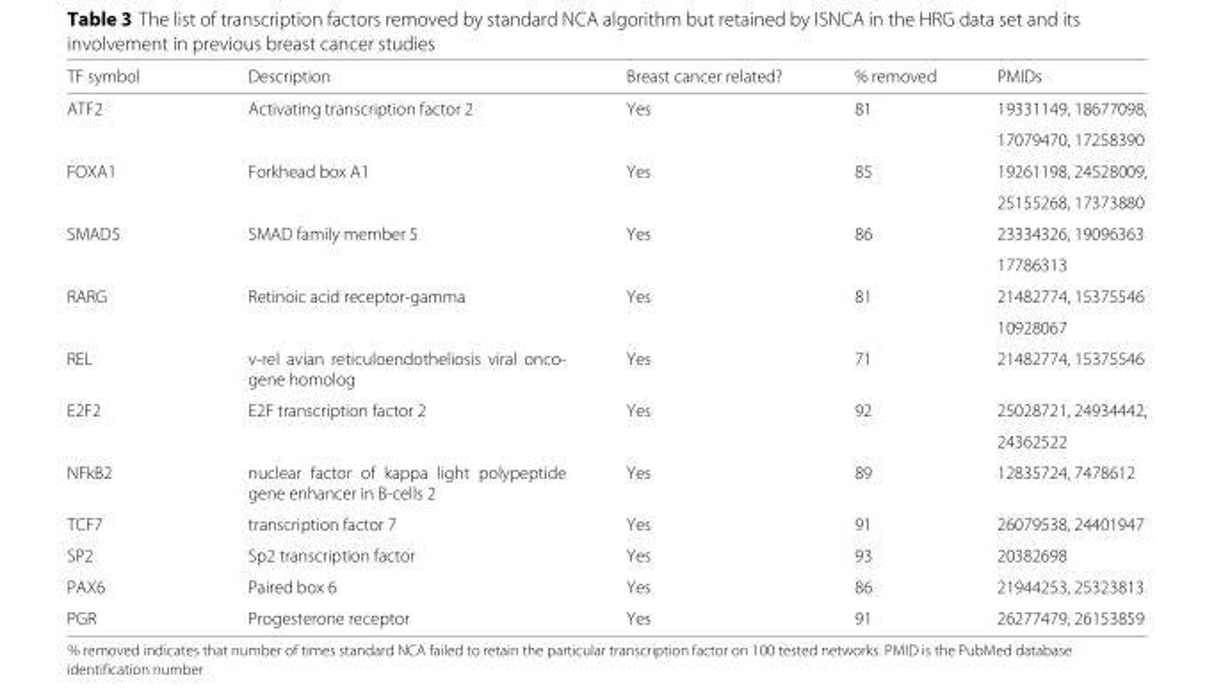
<table><thead><tr><td>TF symbol</td><td>Description</td><td>Breast cancer related?</td><td>% removed</td><td>PMIDs</td></tr></thead><tbody><tr><td rowspan="2">ATF2</td><td>Activating transcription factor 2</td><td>Yes</td><td>81</td><td>19331149, 18677098,</td></tr><tr><td></td><td></td><td></td><td>17079470, 17258390</td></tr><tr><td rowspan="2">FOXA1</td><td>Forkhead box A1</td><td>Yes</td><td>85</td><td>19261198, 24528009,</td></tr><tr><td></td><td></td><td></td><td>25155268, 17373880</td></tr><tr><td rowspan="2">SMAD5</td><td>SMAD family member 5</td><td>Yes</td><td>86</td><td>23334326, 19096363</td></tr><tr><td></td><td></td><td></td><td>17786313</td></tr><tr><td rowspan="2">RARG</td><td>Retinoic acid receptor-gamma</td><td>Yes</td><td>81</td><td>21482774, 15375546</td></tr><tr><td></td><td></td><td></td><td>10928067</td></tr><tr><td>REL</td><td>v-rel avian reticuloendotheliosis viral onco- gene homolog</td><td>Yes</td><td>71</td><td>21482774, 15375546</td></tr><tr><td rowspan="2">E2F2</td><td>E2F transcription factor 2</td><td>Yes</td><td>92</td><td>25028721, 24934442,</td></tr><tr><td></td><td></td><td></td><td>24362522</td></tr><tr><td>NFkB2</td><td>nuclear factor of kappa light polypeptide gene enhancer in B-cells 2</td><td>Yes</td><td>89</td><td>12835724, 7478612</td></tr><tr><td>TCF7</td><td>transcription factor 7</td><td>Yes</td><td>91</td><td>26079538, 24401947</td></tr><tr><td>SP2</td><td>Sp2 transcription factor</td><td>Yes</td><td>93</td><td>20382698</td></tr><tr><td>PAX6</td><td>Paired box 6</td><td>Yes</td><td>86</td><td>21944253, 25323813</td></tr><tr><td>PGR</td><td>Progesterone receptor</td><td>Yes</td><td>91</td><td>26277479, 26153859</td></tr></tbody></table>